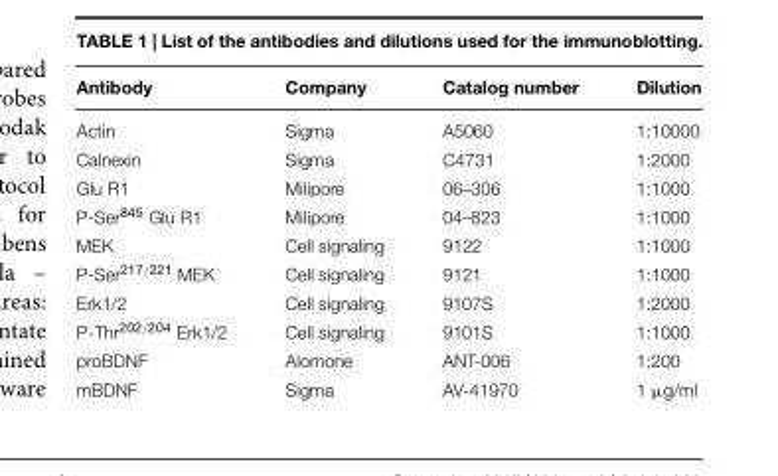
<table><thead><tr><td>Antibody</td><td>Company</td><td>Catalog number</td><td>Dilution</td></tr></thead><tbody><tr><td>Actin</td><td>Sigma</td><td>A5060</td><td>1:10000</td></tr><tr><td>Calnexin</td><td>Sigma</td><td>C4731</td><td>1:2000</td></tr><tr><td>Glu R1</td><td>Milipore</td><td>06–306</td><td>1:1000</td></tr><tr><td>P-Ser<sup>845</sup> Glu R1</td><td>Milipore</td><td>04–823</td><td>1:1000</td></tr><tr><td>MEK</td><td>Cell signaling</td><td>9122</td><td>1:1000</td></tr><tr><td>P-Ser<sup>217/221</sup> MEK</td><td>Cell signaling</td><td>9121</td><td>1:1000</td></tr><tr><td>Erk1/2</td><td>Cell signaling</td><td>9107S</td><td>1:2000</td></tr><tr><td>P-Thr<sup>202/204</sup> Erk1/2</td><td>Cell signaling</td><td>9101S</td><td>1:1000</td></tr><tr><td>proBDNF</td><td>Alomone</td><td>ANT-006</td><td>1:200</td></tr><tr><td>mBDNF</td><td>Sigma</td><td>AV-41970</td><td>1 μg/ml</td></tr></tbody></table>